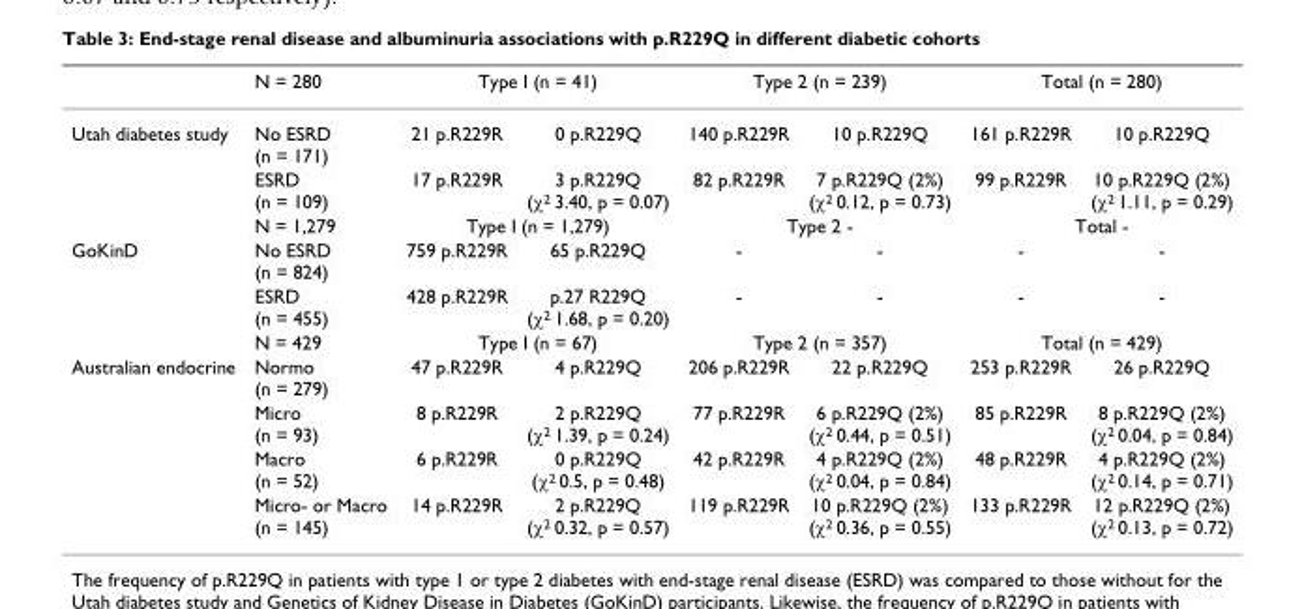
<table><thead><tr><td rowspan="2">Utah diabetes study</td><td rowspan="2">N = 280 No ESRD (n = 171)</td><td colspan="2">Type I (n = 41)</td><td colspan="2">Type 2 (n = 239)</td><td colspan="2">Total (n = 280)</td></tr><tr><td>21 p.R229R</td><td>0 p.R229Q</td><td>140 p.R229R</td><td>10 p.R229Q</td><td>161 p.R229R</td><td>10 p.R229Q</td></tr></thead><tbody><tr><td></td><td>ESRD (n = 109)</td><td>17 p.R229R</td><td>3 p.R229Q (χ<sup>2</sup> 3.40, p = 0.07)</td><td>82 p.R229R</td><td>7 p.R229Q (2%) (χ<sup>2</sup> 0.12, p = 0.73)</td><td>99 p.R229R</td><td>10 p.R229Q (2%) (χ<sup>2</sup> 1.11, p = 0.29)</td></tr><tr><td></td><td>N = 1,279</td><td colspan="2">Type I (n = 1,279)</td><td colspan="2">Type 2 -</td><td colspan="2">Total -</td></tr><tr><td rowspan="3">GoKinD</td><td>No ESRD (n = 824)</td><td>759 p.R229R</td><td>65 p.R229Q</td><td>-</td><td>-</td><td>-</td><td>-</td></tr><tr><td>ESRD (n = 455)</td><td>428 p.R229R</td><td>p.27 R229Q (χ<sup>2</sup> 1.68, p = 0.20)</td><td>-</td><td>-</td><td>-</td><td>-</td></tr><tr><td>N = 429</td><td colspan="2">Type I (n = 67)</td><td colspan="2">Type 2 (n = 357)</td><td colspan="2">Total (n = 429)</td></tr><tr><td rowspan="4">Australian endocrine</td><td>Normo (n = 279)</td><td>47 p.R229R</td><td>4 p.R229Q</td><td>206 p.R229R</td><td>22 p.R229Q</td><td>253 p.R229R</td><td>26 p.R229Q</td></tr><tr><td>Micro (n = 93)</td><td>8 p.R229R</td><td>2 p.R229Q (χ<sup>2</sup> 1.39, p = 0.24)</td><td>77 p.R229R</td><td>6 p.R229Q (2%) (χ<sup>2</sup> 0.44, p = 0.51)</td><td>85 p.R229R</td><td>8 p.R229Q (2%) (χ<sup>2</sup> 0.04, p = 0.84)</td></tr><tr><td>Macro (n = 52)</td><td>6 p.R229R</td><td>0 p.R229Q (χ<sup>2</sup> 0.5, p = 0.48)</td><td>42 p.R229R</td><td>4 p.R229Q (2%) (χ<sup>2</sup> 0.04, p = 0.84)</td><td>48 p.R229R</td><td>4 p.R229Q (2%) (χ<sup>2</sup> 0.14, p = 0.71)</td></tr><tr><td>Micro- or Macro (n = 145)</td><td>14 p.R229R</td><td>2 p.R229Q (χ<sup>2</sup> 0.32, p = 0.57)</td><td>119 p.R229R</td><td>10 p.R229Q (2%) (χ<sup>2</sup> 0.36, p = 0.55)</td><td>133 p.R229R</td><td>12 p.R229Q (2%) (χ<sup>2</sup> 0.13, p = 0.72)</td></tr></tbody></table>